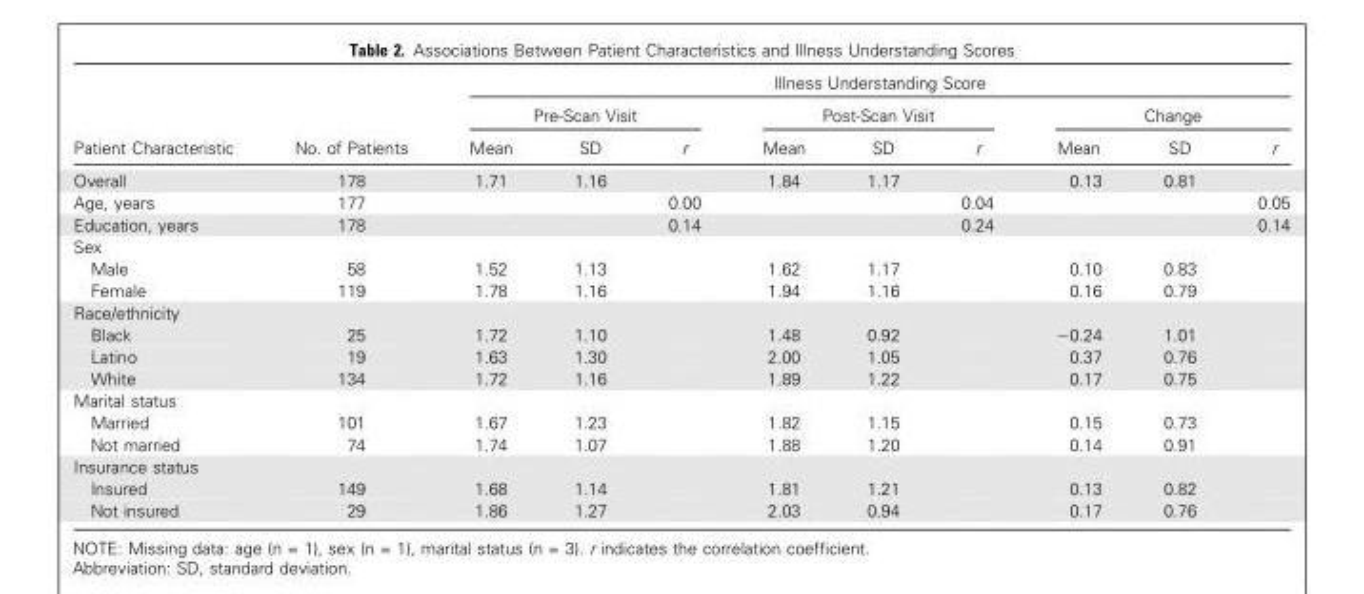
<table><thead><tr><td rowspan="3">Patient Characteristic</td><td rowspan="3">No. of Patients</td><td colspan="9">Illness Understanding Score</td></tr><tr><td colspan="3">Pre-Scan Visit</td><td colspan="3">Post-Scan Visit</td><td colspan="3">Change</td></tr><tr><td>Mean</td><td>SD</td><td>r</td><td>Mean</td><td>SD</td><td>r</td><td>Mean</td><td>SD</td><td>r</td></tr></thead><tbody><tr><td>Overall</td><td>178</td><td>1.71</td><td>1.16</td><td></td><td>1.84</td><td>1.17</td><td></td><td>0.13</td><td>0.81</td><td></td></tr><tr><td>Age, years</td><td>177</td><td></td><td></td><td>0.00</td><td></td><td></td><td>0.04</td><td></td><td></td><td>0.05</td></tr><tr><td>Education, years</td><td>178</td><td></td><td></td><td>0.14</td><td></td><td></td><td>0.24</td><td></td><td></td><td>0.14</td></tr><tr><td colspan="11">Sex</td></tr><tr><td>Male</td><td>58</td><td>1.52</td><td>1.13</td><td></td><td>1.62</td><td>1.17</td><td></td><td>0.10</td><td>0.83</td><td></td></tr><tr><td>Female</td><td>119</td><td>1.78</td><td>1.16</td><td></td><td>1.94</td><td>1.16</td><td></td><td>0.16</td><td>0.79</td><td></td></tr><tr><td colspan="11">Race/ethnicity</td></tr><tr><td>Black</td><td>25</td><td>1.72</td><td>1.10</td><td></td><td>1.48</td><td>0.92</td><td></td><td>−0.24</td><td>1.01</td><td></td></tr><tr><td>Latino</td><td>19</td><td>1.63</td><td>1.30</td><td></td><td>2.00</td><td>1.05</td><td></td><td>0.37</td><td>0.76</td><td></td></tr><tr><td>White</td><td>134</td><td>1.72</td><td>1.16</td><td></td><td>1.89</td><td>1.22</td><td></td><td>0.17</td><td>0.75</td><td></td></tr><tr><td colspan="11">Marital status</td></tr><tr><td>Married</td><td>101</td><td>1.67</td><td>1.23</td><td></td><td>1.82</td><td>1.15</td><td></td><td>0.15</td><td>0.73</td><td></td></tr><tr><td>Not married</td><td>74</td><td>1.74</td><td>1.07</td><td></td><td>1.88</td><td>1.20</td><td></td><td>0.14</td><td>0.91</td><td></td></tr><tr><td colspan="11">Insurance status</td></tr><tr><td>Insured</td><td>149</td><td>1.68</td><td>1.14</td><td></td><td>1.81</td><td>1.21</td><td></td><td>0.13</td><td>0.82</td><td></td></tr><tr><td>Not insured</td><td>29</td><td>1.86</td><td>1.27</td><td></td><td>2.03</td><td>0.94</td><td></td><td>0.17</td><td>0.76</td><td></td></tr></tbody></table>